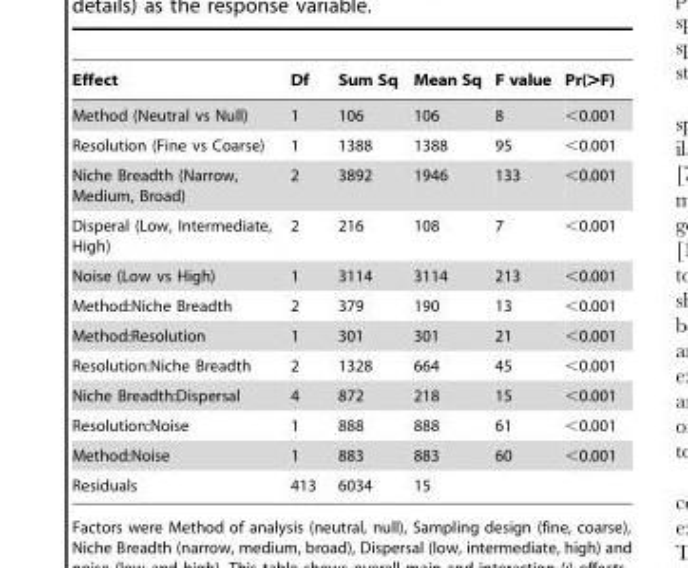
<table><thead><tr><td>Effect</td><td>Df</td><td>Sum Sq</td><td>Mean Sq</td><td>F value</td><td>Pr(&gt;F)</td></tr></thead><tbody><tr><td>Method (Neutral vs Null)</td><td>1</td><td>106</td><td>106</td><td>8</td><td>&lt;0.001</td></tr><tr><td>Resolution (Fine vs Coarse)</td><td>1</td><td>1388</td><td>1388</td><td>95</td><td>&lt;0.001</td></tr><tr><td>Niche Breadth (Narrow, Medium, Broad)</td><td>2</td><td>3892</td><td>1946</td><td>133</td><td>&lt;0.001</td></tr><tr><td>Disperal (Low, Intermediate, High)</td><td>2</td><td>216</td><td>108</td><td>7</td><td>&lt;0.001</td></tr><tr><td>Noise (Low vs High)</td><td>1</td><td>3114</td><td>3114</td><td>213</td><td>&lt;0.001</td></tr><tr><td>Method:Niche Breadth</td><td>2</td><td>379</td><td>190</td><td>13</td><td>&lt;0.001</td></tr><tr><td>Method:Resolution</td><td>1</td><td>301</td><td>301</td><td>21</td><td>&lt;0.001</td></tr><tr><td>Resolution:Niche Breadth</td><td>2</td><td>1328</td><td>664</td><td>45</td><td>&lt;0.001</td></tr><tr><td>Niche Breadth:Dispersal</td><td>4</td><td>872</td><td>218</td><td>15</td><td>&lt;0.001</td></tr><tr><td>Resolution:Noise</td><td>1</td><td>888</td><td>888</td><td>61</td><td>&lt;0.001</td></tr><tr><td>Method:Noise</td><td>1</td><td>883</td><td>883</td><td>60</td><td>&lt;0.001</td></tr><tr><td>Residuals</td><td>413</td><td>6034</td><td>15</td><td></td><td></td></tr></tbody></table>